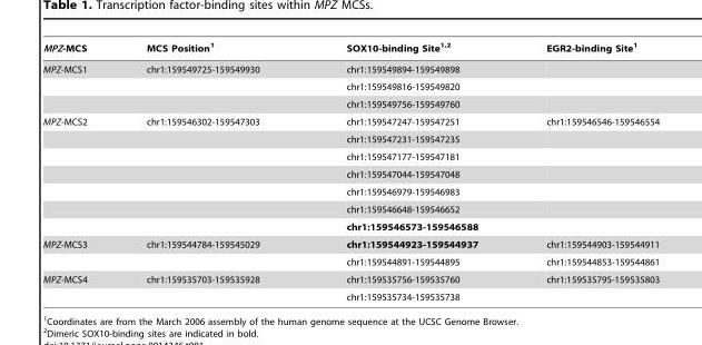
<table><thead><tr><td>MPZ-MCS</td><td>MCS Position<sup>1</sup></td><td>SOX10-binding Site<sup>1,2</sup></td><td>EGR2-binding Site<sup>1</sup></td></tr></thead><tbody><tr><td rowspan="3">MPZ-MCS1</td><td>chr1:159549725-159549930</td><td>chr1:159549894-159549898</td><td></td></tr><tr><td></td><td>chr1:159549816-159549820</td><td></td></tr><tr><td></td><td>chr1:159549756-159549760</td><td></td></tr><tr><td rowspan="7">MPZ-MCS2</td><td>chr1:159546302-159547303</td><td>chr1:159547247-159547251</td><td>chr1:159546546-159546554</td></tr><tr><td></td><td>chr1:159547231-159547235</td><td></td></tr><tr><td></td><td>chr1:159547177-159547181</td><td></td></tr><tr><td></td><td>chr1:159547044-159547048</td><td></td></tr><tr><td></td><td>chr1:159546979-159546983</td><td></td></tr><tr><td></td><td>chr1:159546648-159546652</td><td></td></tr><tr><td></td><td>chr1:159546573-159546588</td><td></td></tr><tr><td rowspan="2">MPZ-MCS3</td><td>chr1:159544784-159545029</td><td>chr1:159544923-159544937</td><td>chr1:159544903-159544911</td></tr><tr><td></td><td>chr1:159544891-159544895</td><td>chr1:159544853-159544861</td></tr><tr><td rowspan="2">MPZ-MCS4</td><td>chr1:159535703-159535928</td><td>chr1:159535756-159535760</td><td>chr1:159535795-159535803</td></tr><tr><td></td><td>chr1:159535734-159535738</td><td></td></tr></tbody></table>